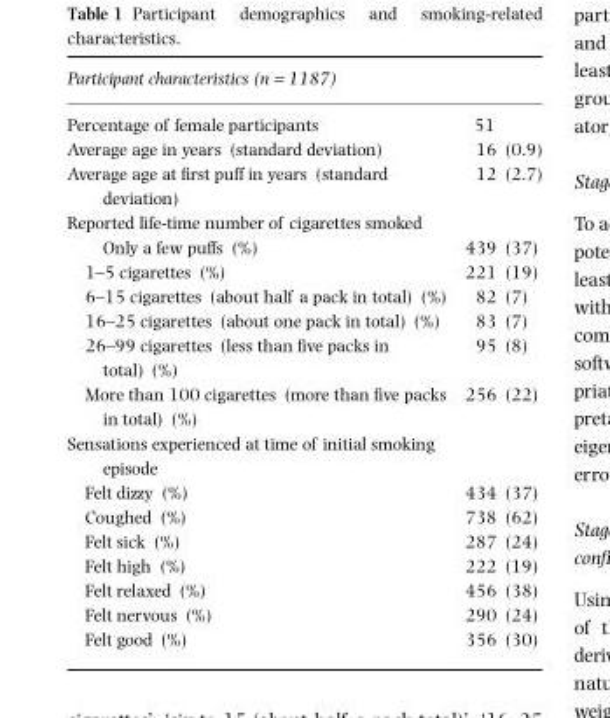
<table><thead><tr><td>Participant characteristics (n = 1187)</td><td></td></tr></thead><tbody><tr><td>Percentage of female participants</td><td>51</td></tr><tr><td>Average age in years (standard deviation)</td><td>16 (0.9)</td></tr><tr><td>Average age at first puff in years (standard deviation)</td><td>12 (2.7)</td></tr><tr><td colspan="2">Reported life-time number of cigarettes smoked</td></tr><tr><td>Only a few puffs (%)</td><td>439 (37)</td></tr><tr><td>1–5 cigarettes (%)</td><td>221 (19)</td></tr><tr><td>6–15 cigarettes (about half a pack in total) (%)</td><td>82 (7)</td></tr><tr><td>16–25 cigarettes (about one pack in total) (%)</td><td>83 (7)</td></tr><tr><td>26–99 cigarettes (less than five packs in total) (%)</td><td>95 (8)</td></tr><tr><td>More than 100 cigarettes (more than five packs in total) (%)</td><td>256 (22)</td></tr><tr><td colspan="2">Sensations experienced at time of initial smoking episode</td></tr><tr><td>Felt dizzy (%)</td><td>434 (37)</td></tr><tr><td>Coughed (%)</td><td>738 (62)</td></tr><tr><td>Felt sick (%)</td><td>287 (24)</td></tr><tr><td>Felt high (%)</td><td>222 (19)</td></tr><tr><td>Felt relaxed (%)</td><td>456 (38)</td></tr><tr><td>Felt nervous (%)</td><td>290 (24)</td></tr><tr><td>Felt good (%)</td><td>356 (30)</td></tr></tbody></table>